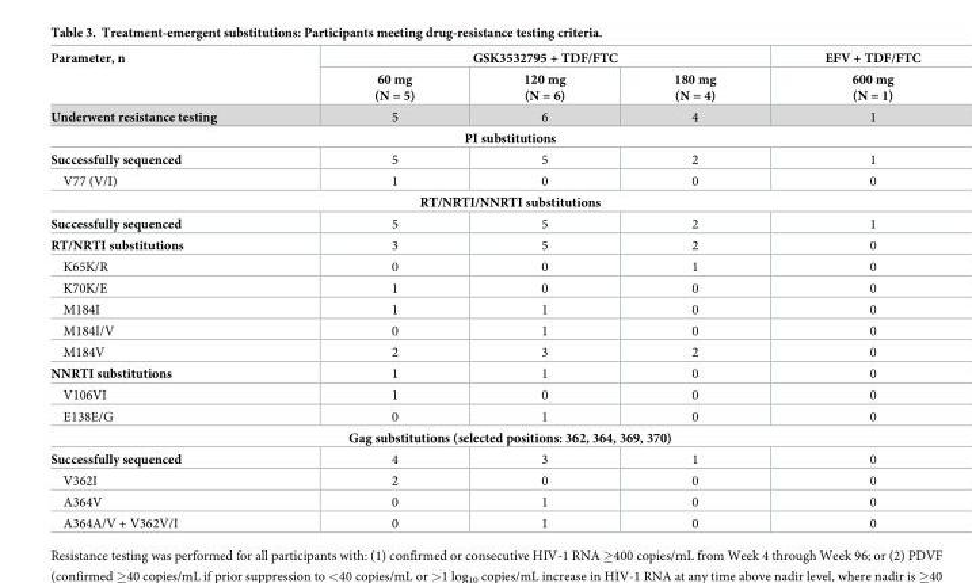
<table><thead><tr><td rowspan="2">Parameter, n</td><td colspan="3">GSK3532795 + TDF/FTC</td><td rowspan="2">EFV + TDF/FTC 600 mg (N = 1)</td></tr><tr><td>60 mg (N = 5)</td><td>120 mg (N = 6)</td><td>180 mg (N = 4)</td></tr></thead><tbody><tr><td>Underwent resistance testing</td><td>5</td><td>6</td><td>4</td><td>1</td></tr><tr><td colspan="5">PI substitutions</td></tr><tr><td>Successfully sequenced</td><td>5</td><td>5</td><td>2</td><td>1</td></tr><tr><td>V77 (V/I)</td><td>1</td><td>0</td><td>0</td><td>0</td></tr><tr><td colspan="5">RT/NRTI/NNRTI substitutions</td></tr><tr><td>Successfully sequenced</td><td>5</td><td>5</td><td>2</td><td>1</td></tr><tr><td>RT/NRTI substitutions</td><td>3</td><td>5</td><td>2</td><td>0</td></tr><tr><td>K65K/R</td><td>0</td><td>0</td><td>1</td><td>0</td></tr><tr><td>K70K/E</td><td>1</td><td>0</td><td>0</td><td>0</td></tr><tr><td>M184I</td><td>1</td><td>1</td><td>0</td><td>0</td></tr><tr><td>M184I/V</td><td>0</td><td>1</td><td>0</td><td>0</td></tr><tr><td>M184V</td><td>2</td><td>3</td><td>2</td><td>0</td></tr><tr><td>NNRTI substitutions</td><td>1</td><td>1</td><td>0</td><td>0</td></tr><tr><td>V106VI</td><td>1</td><td>0</td><td>0</td><td>0</td></tr><tr><td>E138E/G</td><td>0</td><td>1</td><td>0</td><td>0</td></tr><tr><td colspan="5">Gag substitutions (selected positions: 362, 364, 369, 370)</td></tr><tr><td>Successfully sequenced</td><td>4</td><td>3</td><td>1</td><td>0</td></tr><tr><td>V362I</td><td>2</td><td>0</td><td>0</td><td>0</td></tr><tr><td>A364V</td><td>0</td><td>1</td><td>0</td><td>0</td></tr><tr><td>A364A/V + V362V/I</td><td>0</td><td>1</td><td>0</td><td>0</td></tr></tbody></table>